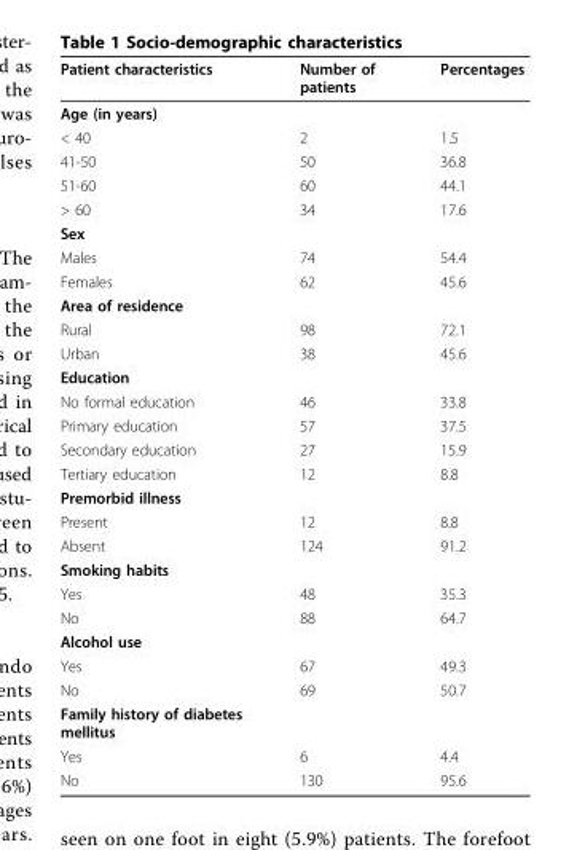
<table><thead><tr><td>Patient characteristics</td><td>Number of patients</td><td>Percentages</td></tr></thead><tbody><tr><td colspan="3">Age (in years)</td></tr><tr><td>&lt; 40</td><td>2</td><td>1.5</td></tr><tr><td>41-50</td><td>50</td><td>36.8</td></tr><tr><td>51-60</td><td>60</td><td>44.1</td></tr><tr><td>&gt; 60</td><td>34</td><td>17.6</td></tr><tr><td colspan="3">Sex</td></tr><tr><td>Males</td><td>74</td><td>54.4</td></tr><tr><td>Females</td><td>62</td><td>45.6</td></tr><tr><td colspan="3">Area of residence</td></tr><tr><td>Rural</td><td>98</td><td>72.1</td></tr><tr><td>Urban</td><td>38</td><td>45.6</td></tr><tr><td colspan="3">Education</td></tr><tr><td>No formal education</td><td>46</td><td>33.8</td></tr><tr><td>Primary education</td><td>57</td><td>37.5</td></tr><tr><td>Secondary education</td><td>27</td><td>15.9</td></tr><tr><td>Tertiary education</td><td>12</td><td>8.8</td></tr><tr><td colspan="3">Premorbid illness</td></tr><tr><td>Present</td><td>12</td><td>8.8</td></tr><tr><td>Absent</td><td>124</td><td>91.2</td></tr><tr><td colspan="3">Smoking habits</td></tr><tr><td>Yes</td><td>48</td><td>35.3</td></tr><tr><td>No</td><td>88</td><td>64.7</td></tr><tr><td colspan="3">Alcohol use</td></tr><tr><td>Yes</td><td>67</td><td>49.3</td></tr><tr><td>No</td><td>69</td><td>50.7</td></tr><tr><td colspan="3">Family history of diabetes mellitus</td></tr><tr><td>Yes</td><td>6</td><td>4.4</td></tr><tr><td>No</td><td>130</td><td>95.6</td></tr></tbody></table>